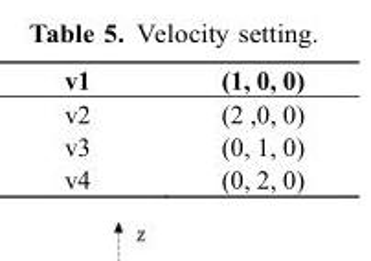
<table><thead><tr><td>v1</td><td>(1, 0, 0)</td></tr></thead><tbody><tr><td>v2</td><td>(2 ,0, 0)</td></tr><tr><td>v3</td><td>(0, 1, 0)</td></tr><tr><td>v4</td><td>(0, 2, 0)</td></tr></tbody></table>